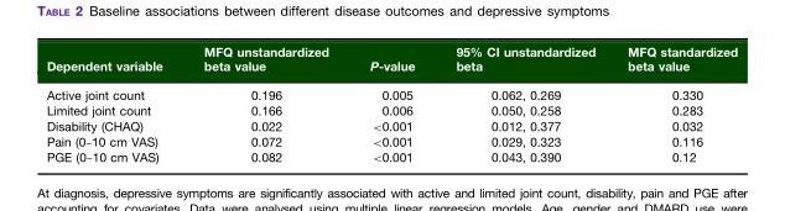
<table><thead><tr><td>Dependent variable</td><td>MFQ unstandardized beta value</td><td>P-value</td><td>95% CI unstandardized beta</td><td>MFQ standardized beta value</td></tr></thead><tbody><tr><td>Active joint count</td><td>0.196</td><td>0.005</td><td>0.062, 0.269</td><td>0.330</td></tr><tr><td>Limited joint count</td><td>0.166</td><td>0.006</td><td>0.050, 0.258</td><td>0.283</td></tr><tr><td>Disability (CHAQ)</td><td>0.022</td><td>&lt;0.001</td><td>0.012, 0.377</td><td>0.032</td></tr><tr><td>Pain (0–10 cm VAS)</td><td>0.072</td><td>&lt;0.001</td><td>0.029, 0.323</td><td>0.116</td></tr><tr><td>PGE (0–10 cm VAS)</td><td>0.082</td><td>&lt;0.001</td><td>0.043, 0.390</td><td>0.12</td></tr></tbody></table>